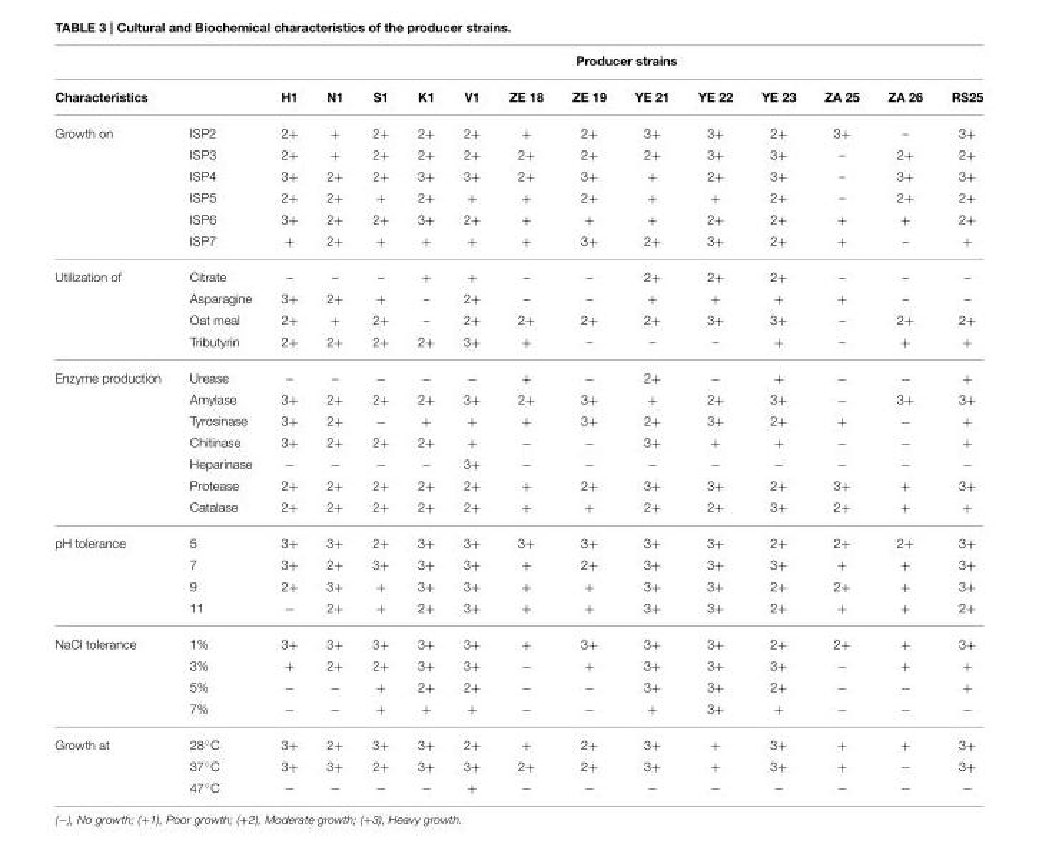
<table><thead><tr><td rowspan="2">Characteristics</td><td rowspan="2"></td><td colspan="13">Producer strains</td></tr><tr><td>H1</td><td>N1</td><td>S1</td><td>K1</td><td>V1</td><td>ZE 18</td><td>ZE 19</td><td>YE 21</td><td>YE 22</td><td>YE 23</td><td>ZA 25</td><td>ZA 26</td><td>RS25</td></tr></thead><tbody><tr><td rowspan="6">Growth on</td><td>ISP2</td><td>2+</td><td>+</td><td>2+</td><td>2+</td><td>2+</td><td>+</td><td>2+</td><td>3+</td><td>3+</td><td>2+</td><td>3+</td><td>–</td><td>3+</td></tr><tr><td>ISP3</td><td>2+</td><td>+</td><td>2+</td><td>2+</td><td>2+</td><td>2+</td><td>2+</td><td>2+</td><td>3+</td><td>3+</td><td>–</td><td>2+</td><td>2+</td></tr><tr><td>ISP4</td><td>3+</td><td>2+</td><td>2+</td><td>3+</td><td>3+</td><td>2+</td><td>3+</td><td>+</td><td>2+</td><td>3+</td><td>–</td><td>3+</td><td>3+</td></tr><tr><td>ISP5</td><td>2+</td><td>2+</td><td>+</td><td>2+</td><td>+</td><td>+</td><td>2+</td><td>+</td><td>+</td><td>2+</td><td>–</td><td>2+</td><td>2+</td></tr><tr><td>ISP6</td><td>3+</td><td>2+</td><td>2+</td><td>3+</td><td>2+</td><td>+</td><td>+</td><td>+</td><td>2+</td><td>2+</td><td>+</td><td>+</td><td>2+</td></tr><tr><td>ISP7</td><td>+</td><td>2+</td><td>+</td><td>+</td><td>+</td><td>+</td><td>3+</td><td>2+</td><td>3+</td><td>2+</td><td>+</td><td>–</td><td>+</td></tr><tr><td rowspan="4">Utilization of</td><td>Citrate</td><td>–</td><td>–</td><td>–</td><td>+</td><td>+</td><td>–</td><td>–</td><td>2+</td><td>2+</td><td>2+</td><td>–</td><td>–</td><td>–</td></tr><tr><td>Asparagine</td><td>3+</td><td>2+</td><td>+</td><td>–</td><td>2+</td><td>–</td><td>–</td><td>+</td><td>+</td><td>+</td><td>+</td><td>–</td><td>–</td></tr><tr><td>Oat meal</td><td>2+</td><td>+</td><td>2+</td><td>–</td><td>2+</td><td>2+</td><td>2+</td><td>2+</td><td>3+</td><td>3+</td><td>–</td><td>2+</td><td>2+</td></tr><tr><td>Tributyrin</td><td>2+</td><td>2+</td><td>2+</td><td>2+</td><td>3+</td><td>+</td><td>–</td><td>–</td><td>–</td><td>+</td><td>–</td><td>+</td><td>+</td></tr><tr><td rowspan="7">Enzyme production</td><td>Urease</td><td>–</td><td>–</td><td>−</td><td>−</td><td>−</td><td>+</td><td>−</td><td>2+</td><td>−</td><td>+</td><td>−</td><td>−</td><td>+</td></tr><tr><td>Amylase</td><td>3+</td><td>2+</td><td>2+</td><td>2+</td><td>3+</td><td>2+</td><td>3+</td><td>+</td><td>2+</td><td>3+</td><td>−</td><td>3+</td><td>3+</td></tr><tr><td>Tyrosinase</td><td>3+</td><td>2+</td><td>−</td><td>+</td><td>+</td><td>+</td><td>3+</td><td>2+</td><td>3+</td><td>2+</td><td>+</td><td>−</td><td>+</td></tr><tr><td>Chitinase</td><td>3+</td><td>2+</td><td>2+</td><td>2+</td><td>+</td><td>−</td><td>−</td><td>3+</td><td>+</td><td>+</td><td>−</td><td>−</td><td>+</td></tr><tr><td>Heparinase</td><td>−</td><td>−</td><td>−</td><td>−</td><td>3+</td><td>−</td><td>−</td><td>−</td><td>−</td><td>−</td><td>−</td><td>−</td><td>−</td></tr><tr><td>Protease</td><td>2+</td><td>2+</td><td>2+</td><td>2+</td><td>2+</td><td>+</td><td>2+</td><td>3+</td><td>3+</td><td>2+</td><td>3+</td><td>+</td><td>3+</td></tr><tr><td>Catalase</td><td>2+</td><td>2+</td><td>2+</td><td>2+</td><td>2+</td><td>+</td><td>+</td><td>2+</td><td>2+</td><td>3+</td><td>2+</td><td>+</td><td>+</td></tr><tr><td rowspan="4">pH tolerance</td><td>5</td><td>3+</td><td>3+</td><td>2+</td><td>3+</td><td>3+</td><td>3+</td><td>3+</td><td>3+</td><td>3+</td><td>2+</td><td>2+</td><td>2+</td><td>3+</td></tr><tr><td>7</td><td>3+</td><td>2+</td><td>3+</td><td>3+</td><td>3+</td><td>+</td><td>2+</td><td>3+</td><td>3+</td><td>3+</td><td>+</td><td>+</td><td>3+</td></tr><tr><td>9</td><td>2+</td><td>3+</td><td>+</td><td>3+</td><td>3+</td><td>+</td><td>+</td><td>3+</td><td>3+</td><td>2+</td><td>2+</td><td>+</td><td>3+</td></tr><tr><td>11</td><td>−</td><td>2+</td><td>+</td><td>2+</td><td>3+</td><td>+</td><td>+</td><td>3+</td><td>3+</td><td>2+</td><td>+</td><td>+</td><td>2+</td></tr><tr><td rowspan="4">NaCl tolerance</td><td>1%</td><td>3+</td><td>3+</td><td>3+</td><td>3+</td><td>3+</td><td>+</td><td>3+</td><td>3+</td><td>3+</td><td>2+</td><td>2+</td><td>+</td><td>3+</td></tr><tr><td>3%</td><td>+</td><td>2+</td><td>2+</td><td>3+</td><td>3+</td><td>−</td><td>+</td><td>3+</td><td>3+</td><td>3+</td><td>−</td><td>+</td><td>+</td></tr><tr><td>5%</td><td>−</td><td>−</td><td>+</td><td>2+</td><td>2+</td><td>−</td><td>−</td><td>3+</td><td>3+</td><td>2+</td><td>−</td><td>−</td><td>+</td></tr><tr><td>7%</td><td>−</td><td>−</td><td>+</td><td>+</td><td>+</td><td>−</td><td>−</td><td>+</td><td>3+</td><td>+</td><td>−</td><td>−</td><td>−</td></tr><tr><td rowspan="3">Growth at</td><td>28◦C</td><td>3+</td><td>2+</td><td>3+</td><td>3+</td><td>2+</td><td>+</td><td>2+</td><td>3+</td><td>+</td><td>3+</td><td>+</td><td>+</td><td>3+</td></tr><tr><td>37◦C</td><td>3+</td><td>3+</td><td>2+</td><td>3+</td><td>3+</td><td>2+</td><td>2+</td><td>3+</td><td>+</td><td>3+</td><td>+</td><td>−</td><td>3+</td></tr><tr><td>47◦C</td><td>−</td><td>−</td><td>−</td><td>−</td><td>+</td><td>−</td><td>−</td><td>−</td><td>−</td><td>−</td><td>−</td><td>−</td><td>−</td></tr></tbody></table>